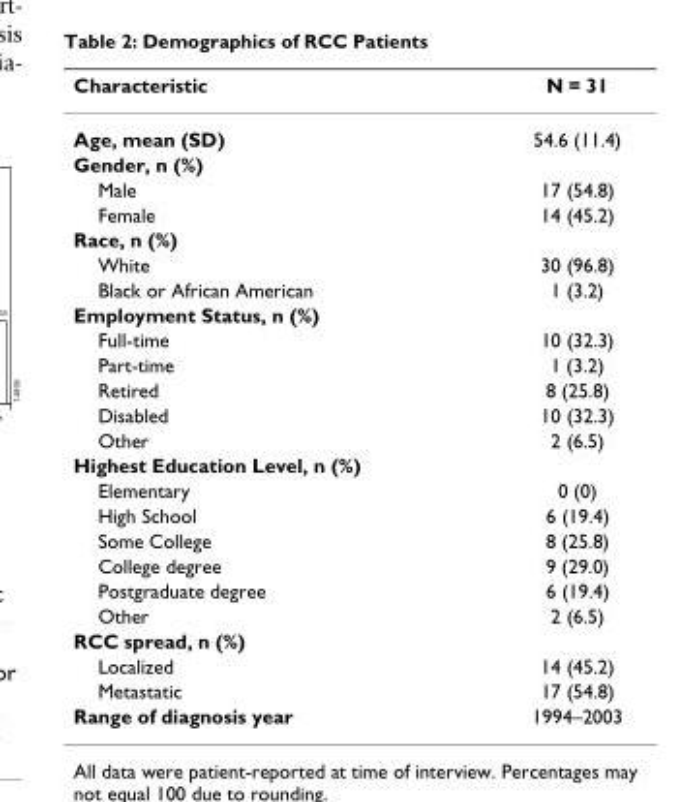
<table><thead><tr><td>Characteristic</td><td>N = 31</td></tr></thead><tbody><tr><td>Age, mean (SD)</td><td>54.6 (11.4)</td></tr><tr><td colspan="2">Gender, n (%)</td></tr><tr><td>Male</td><td>17 (54.8)</td></tr><tr><td>Female</td><td>14 (45.2)</td></tr><tr><td colspan="2">Race, n (%)</td></tr><tr><td>White</td><td>30 (96.8)</td></tr><tr><td>Black or African American</td><td>1 (3.2)</td></tr><tr><td colspan="2">Employment Status, n (%)</td></tr><tr><td>Full-time</td><td>10 (32.3)</td></tr><tr><td>Part-time</td><td>1 (3.2)</td></tr><tr><td>Retired</td><td>8 (25.8)</td></tr><tr><td>Disabled</td><td>10 (32.3)</td></tr><tr><td>Other</td><td>2 (6.5)</td></tr><tr><td colspan="2">Highest Education Level, n (%)</td></tr><tr><td>Elementary</td><td>0 (0)</td></tr><tr><td>High School</td><td>6 (19.4)</td></tr><tr><td>Some College</td><td>8 (25.8)</td></tr><tr><td>College degree</td><td>9 (29.0)</td></tr><tr><td>Postgraduate degree</td><td>6 (19.4)</td></tr><tr><td>Other</td><td>2 (6.5)</td></tr><tr><td colspan="2">RCC spread, n (%)</td></tr><tr><td>Localized</td><td>14 (45.2)</td></tr><tr><td>Metastatic</td><td>17 (54.8)</td></tr><tr><td>Range of diagnosis year</td><td>1994–2003</td></tr></tbody></table>